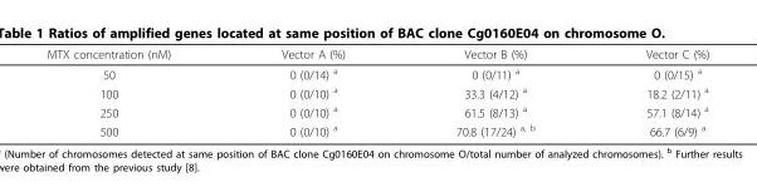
<table><thead><tr><td>MTX concentration (nM)</td><td>Vector A (%)</td><td>Vector B (%)</td><td>Vector C (%)</td></tr></thead><tbody><tr><td>50</td><td>0 (0/14) <sup>a</sup></td><td>0 (0/11) <sup>a</sup></td><td>0 (0/15) <sup>a</sup></td></tr><tr><td>100</td><td>0 (0/10) <sup>a</sup></td><td>33.3 (4/12) <sup>a</sup></td><td>18.2 (2/11) <sup>a</sup></td></tr><tr><td>250</td><td>0 (0/10) <sup>a</sup></td><td>61.5 (8/13) <sup>a</sup></td><td>57.1 (8/14) <sup>a</sup></td></tr><tr><td>500</td><td>0 (0/10) <sup>a</sup></td><td>70.8 (17/24) <sup>a, b</sup></td><td>66.7 (6/9) <sup>a</sup></td></tr></tbody></table>